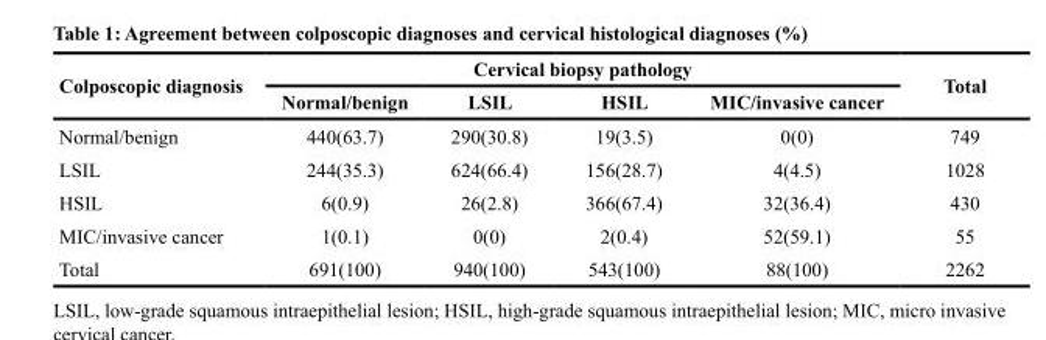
<table><thead><tr><td rowspan="2">Colposcopic diagnosis</td><td colspan="4">Cervical biopsy pathology</td><td rowspan="2">Total</td></tr><tr><td>Normal/benign</td><td>LSIL</td><td>HSIL</td><td>MIC/invasive cancer</td></tr></thead><tbody><tr><td>Normal/benign</td><td>440(63.7)</td><td>290(30.8)</td><td>19(3.5)</td><td>0(0)</td><td>749</td></tr><tr><td>LSIL</td><td>244(35.3)</td><td>624(66.4)</td><td>156(28.7)</td><td>4(4.5)</td><td>1028</td></tr><tr><td>HSIL</td><td>6(0.9)</td><td>26(2.8)</td><td>366(67.4)</td><td>32(36.4)</td><td>430</td></tr><tr><td>MIC/invasive cancer</td><td>1(0.1)</td><td>0(0)</td><td>2(0.4)</td><td>52(59.1)</td><td>55</td></tr><tr><td>Total</td><td>691(100)</td><td>940(100)</td><td>543(100)</td><td>88(100)</td><td>2262</td></tr></tbody></table>